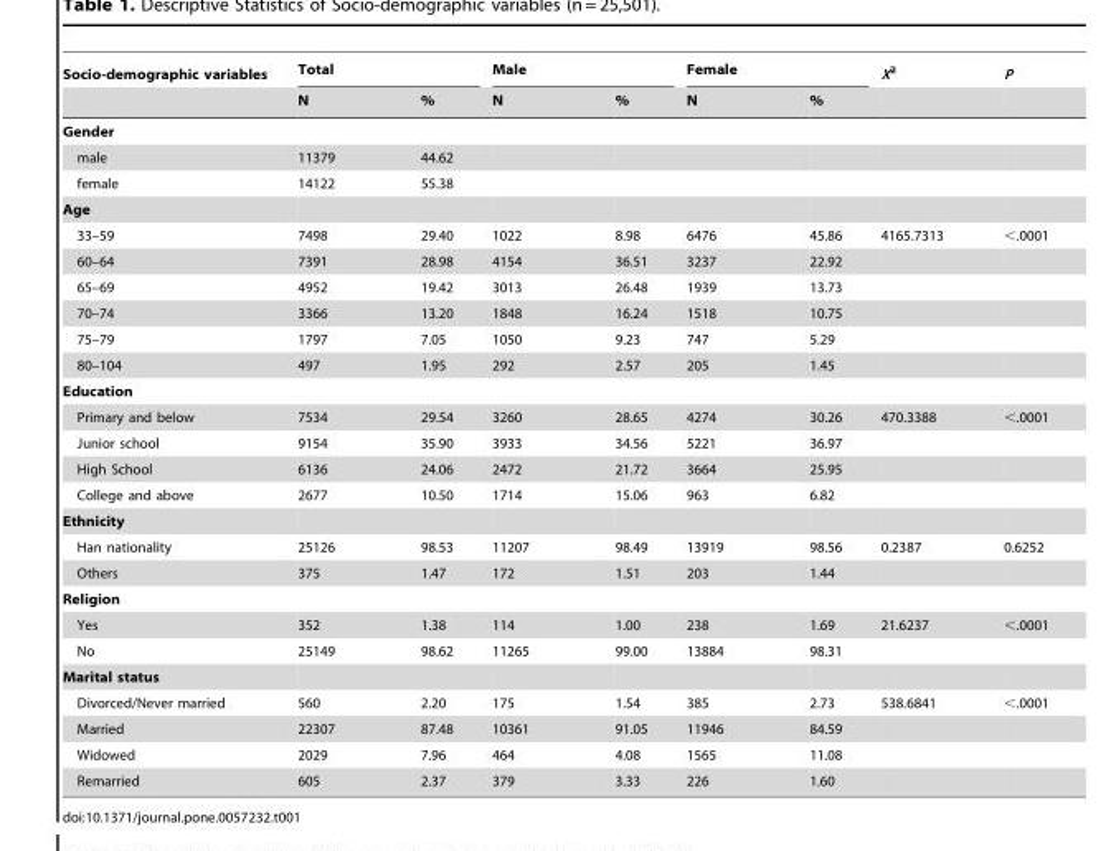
<table><thead><tr><td rowspan="2">Socio-demographic variables</td><td colspan="2">Total</td><td colspan="2">Male</td><td colspan="2">Female</td><td rowspan="2">X<sup>2</sup></td><td rowspan="2">P</td></tr><tr><td>N</td><td>%</td><td>N</td><td>%</td><td>N</td><td>%</td></tr></thead><tbody><tr><td colspan="9">Gender</td></tr><tr><td>male</td><td>11379</td><td>44.62</td><td></td><td></td><td></td><td></td><td></td><td></td></tr><tr><td>female</td><td>14122</td><td>55.38</td><td></td><td></td><td></td><td></td><td></td><td></td></tr><tr><td colspan="9">Age</td></tr><tr><td>33–59</td><td>7498</td><td>29.40</td><td>1022</td><td>8.98</td><td>6476</td><td>45.86</td><td>4165.7313</td><td>&lt;.0001</td></tr><tr><td>60–64</td><td>7391</td><td>28.98</td><td>4154</td><td>36.51</td><td>3237</td><td>22.92</td><td></td><td></td></tr><tr><td>65–69</td><td>4952</td><td>19.42</td><td>3013</td><td>26.48</td><td>1939</td><td>13.73</td><td></td><td></td></tr><tr><td>70–74</td><td>3366</td><td>13.20</td><td>1848</td><td>16.24</td><td>1518</td><td>10.75</td><td></td><td></td></tr><tr><td>75–79</td><td>1797</td><td>7.05</td><td>1050</td><td>9.23</td><td>747</td><td>5.29</td><td></td><td></td></tr><tr><td>80–104</td><td>497</td><td>1.95</td><td>292</td><td>2.57</td><td>205</td><td>1.45</td><td></td><td></td></tr><tr><td colspan="9">Education</td></tr><tr><td>Primary and below</td><td>7534</td><td>29.54</td><td>3260</td><td>28.65</td><td>4274</td><td>30.26</td><td>470.3388</td><td>&lt;.0001</td></tr><tr><td>Junior school</td><td>9154</td><td>35.90</td><td>3933</td><td>34.56</td><td>5221</td><td>36.97</td><td></td><td></td></tr><tr><td>High School</td><td>6136</td><td>24.06</td><td>2472</td><td>21.72</td><td>3664</td><td>25.95</td><td></td><td></td></tr><tr><td>College and above</td><td>2677</td><td>10.50</td><td>1714</td><td>15.06</td><td>963</td><td>6.82</td><td></td><td></td></tr><tr><td colspan="9">Ethnicity</td></tr><tr><td>Han nationality</td><td>25126</td><td>98.53</td><td>11207</td><td>98.49</td><td>13919</td><td>98.56</td><td>0.2387</td><td>0.6252</td></tr><tr><td>Others</td><td>375</td><td>1.47</td><td>172</td><td>1.51</td><td>203</td><td>1.44</td><td></td><td></td></tr><tr><td colspan="9">Religion</td></tr><tr><td>Yes</td><td>352</td><td>1.38</td><td>114</td><td>1.00</td><td>238</td><td>1.69</td><td>21.6237</td><td>&lt;.0001</td></tr><tr><td>No</td><td>25149</td><td>98.62</td><td>11265</td><td>99.00</td><td>13884</td><td>98.31</td><td></td><td></td></tr><tr><td colspan="9">Marital status</td></tr><tr><td>Divorced/Never married</td><td>560</td><td>2.20</td><td>175</td><td>1.54</td><td>385</td><td>2.73</td><td>538.6841</td><td>&lt;.0001</td></tr><tr><td>Married</td><td>22307</td><td>87.48</td><td>10361</td><td>91.05</td><td>11946</td><td>84.59</td><td></td><td></td></tr><tr><td>Widowed</td><td>2029</td><td>7.96</td><td>464</td><td>4.08</td><td>1565</td><td>11.08</td><td></td><td></td></tr><tr><td>Remarried</td><td>605</td><td>2.37</td><td>379</td><td>3.33</td><td>226</td><td>1.60</td><td></td><td></td></tr></tbody></table>